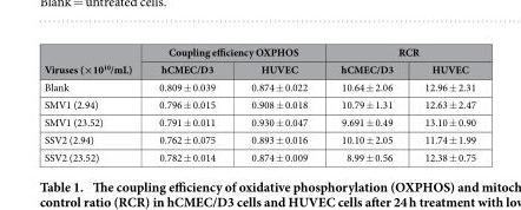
<table><thead><tr><td rowspan="2">Viruses (×10<sup>10</sup>/mL)</td><td colspan="2">Coupling efficiency OXPHOS</td><td colspan="2">RCR</td></tr><tr><td>hCMEC/D3</td><td>HUVEC</td><td>hCMEC/D3</td><td>HUVEC</td></tr></thead><tbody><tr><td>Blank</td><td>0.809 ± 0.039</td><td>0.874 ± 0.022</td><td>10.64 ± 2.06</td><td>12.96 ± 2.31</td></tr><tr><td>SMV1 (2.94)</td><td>0.796 ± 0.015</td><td>0.908 ± 0.018</td><td>10.79 ± 1.31</td><td>12.63 ± 2.47</td></tr><tr><td>SMV1 (23.52)</td><td>0.791 ± 0.011</td><td>0.930 ± 0.047</td><td>9.691 ± 0.49</td><td>13.10 ± 0.90</td></tr><tr><td>SSV2 (2.94)</td><td>0.762 ± 0.075</td><td>0.893 ± 0.016</td><td>10.10 ± 2.05</td><td>11.74 ± 1.99</td></tr><tr><td>SSV2 (23.52)</td><td>0.782 ± 0.014</td><td>0.874 ± 0.009</td><td>8.99 ± 0.56</td><td>12.38 ± 0.75</td></tr></tbody></table>